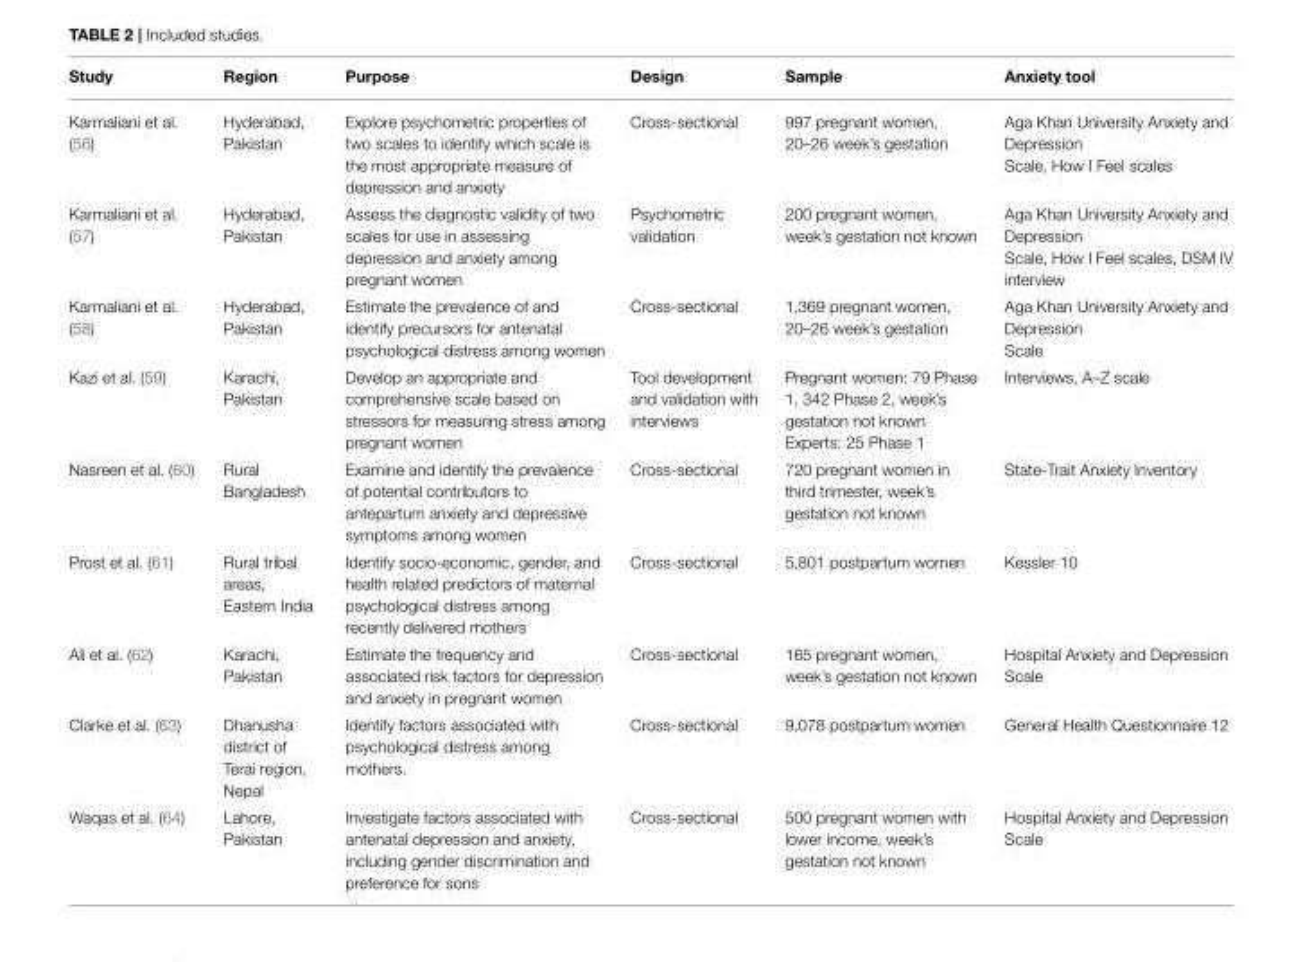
<table><thead><tr><td>Study</td><td>Region</td><td>Purpose</td><td>Design</td><td>Sample</td><td>Anxiety tool</td></tr></thead><tbody><tr><td>Karmaliani et al. (56)</td><td>Hyderabad, Pakistan</td><td>Explore psychometric properties of two scales to identify which scale is the most appropriate measure of depression and anxiety</td><td>Cross-sectional</td><td>997 pregnant women, 20–26 week’s gestation</td><td>Aga Khan University Anxiety and Depression Scale, How I Feel scales</td></tr><tr><td>Karmaliani et al. (57)</td><td>Hyderabad, Pakistan</td><td>Assess the diagnostic validity of two scales for use in assessing depression and anxiety among pregnant women</td><td>Psychometric validation</td><td>200 pregnant women, week’s gestation not known</td><td>Aga Khan University Anxiety and Depression Scale, How I Feel scales, DSM IV interview</td></tr><tr><td>Karmaliani et al. (58)</td><td>Hyderabad, Pakistan</td><td>Estimate the prevalence of and identify precursors for antenatal psychological distress among women</td><td>Cross-sectional</td><td>1,369 pregnant women, 20–26 week’s gestation</td><td>Aga Khan University Anxiety and Depression Scale</td></tr><tr><td>Kazi et al. (59)</td><td>Karachi, Pakistan</td><td>Develop an appropriate and comprehensive scale based on stressors for measuring stress among pregnant women</td><td>Tool development and validation with interviews</td><td>Pregnant women: 79 Phase 1, 342 Phase 2, week’s gestation not known Experts: 25 Phase 1</td><td>Interviews, A–Z scale</td></tr><tr><td>Nasreen et al. (60)</td><td>Rural Bangladesh</td><td>Examine and identify the prevalence of potential contributors to antepartum anxiety and depressive symptoms among women</td><td>Cross-sectional</td><td>720 pregnant women in third trimester, week’s gestation not known</td><td>State-Trait Anxiety Inventory</td></tr><tr><td>Prost et al. (61)</td><td>Rural tribal areas, Eastern India</td><td>Identify socio-economic, gender, and health related predictors of maternal psychological distress among recently delivered mothers</td><td>Cross-sectional</td><td>5,801 postpartum women</td><td>Kessler 10</td></tr><tr><td>Ali et al. (62)</td><td>Karachi, Pakistan</td><td>Estimate the frequency and associated risk factors for depression and anxiety in pregnant women</td><td>Cross-sectional</td><td>165 pregnant women, week’s gestation not known</td><td>Hospital Anxiety and Depression Scale</td></tr><tr><td>Clarke et al. (63)</td><td>Dhanusha district of Terai region, Nepal</td><td>Identify factors associated with psychological distress among mothers.</td><td>Cross-sectional</td><td>9,078 postpartum women</td><td>General Health Questionnaire 12</td></tr><tr><td>Waqas et al. (64)</td><td>Lahore, Pakistan</td><td>Investigate factors associated with antenatal depression and anxiety, including gender discrimination and preference for sons</td><td>Cross-sectional</td><td>500 pregnant women with lower income, week’s gestation not known</td><td>Hospital Anxiety and Depression Scale</td></tr></tbody></table>